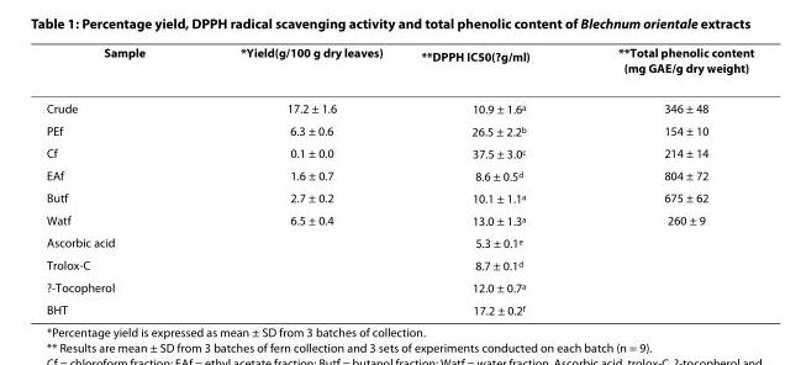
<table><thead><tr><td>Sample</td><td>*Yield(g/100 g dry leaves)</td><td>**DPPH IC50(?g/ml)</td><td>**Total phenolic content (mg GAE/g dry weight)</td></tr></thead><tbody><tr><td>Crude</td><td>17.2 ± 1.6</td><td>10.9 ± 1.6<sup>a</sup></td><td>346 ± 48</td></tr><tr><td>PEf</td><td>6.3 ± 0.6</td><td>26.5 ± 2.2<sup>b</sup></td><td>154 ± 10</td></tr><tr><td>Cf</td><td>0.1 ± 0.0</td><td>37.5 ± 3.0<sup>c</sup></td><td>214 ± 14</td></tr><tr><td>EAf</td><td>1.6 ± 0.7</td><td>8.6 ± 0.5<sup>d</sup></td><td>804 ± 72</td></tr><tr><td>Butf</td><td>2.7 ± 0.2</td><td>10.1 ± 1.1<sup>a</sup></td><td>675 ± 62</td></tr><tr><td>Watf</td><td>6.5 ± 0.4</td><td>13.0 ± 1.3<sup>a</sup></td><td>260 ± 9</td></tr><tr><td>Ascorbic acid</td><td></td><td>5.3 ± 0.1<sup>e</sup></td><td></td></tr><tr><td>Trolox-C</td><td></td><td>8.7 ± 0.1<sup>d</sup></td><td></td></tr><tr><td>?-Tocopherol</td><td></td><td>12.0 ± 0.7<sup>a</sup></td><td></td></tr><tr><td>BHT</td><td></td><td>17.2 ± 0.2<sup>f</sup></td><td></td></tr></tbody></table>